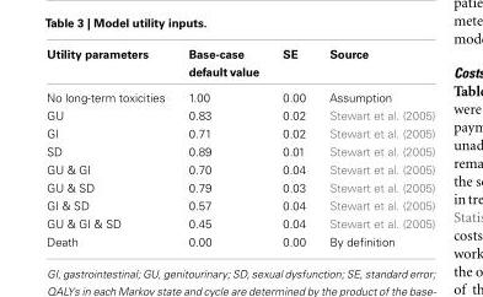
<table><thead><tr><td>Utility parameters</td><td>Base-case default value</td><td>SE</td><td>Source</td></tr></thead><tbody><tr><td>No long-term toxicities</td><td>1.00</td><td>0.00</td><td>Assumption</td></tr><tr><td>GU</td><td>0.83</td><td>0.02</td><td>Stewart et al. (2005)</td></tr><tr><td>GI</td><td>0.71</td><td>0.02</td><td>Stewart et al. (2005)</td></tr><tr><td>SD</td><td>0.89</td><td>0.01</td><td>Stewart et al. (2005)</td></tr><tr><td>GU &amp; GI</td><td>0.70</td><td>0.04</td><td>Stewart et al. (2005)</td></tr><tr><td>GU &amp; SD</td><td>0.79</td><td>0.03</td><td>Stewart et al. (2005)</td></tr><tr><td>GI &amp; SD</td><td>0.57</td><td>0.04</td><td>Stewart et al. (2005)</td></tr><tr><td>GU &amp; GI &amp; SD</td><td>0.45</td><td>0.04</td><td>Stewart et al. (2005)</td></tr><tr><td>Death</td><td>0.00</td><td>0.00</td><td>By definition</td></tr></tbody></table>